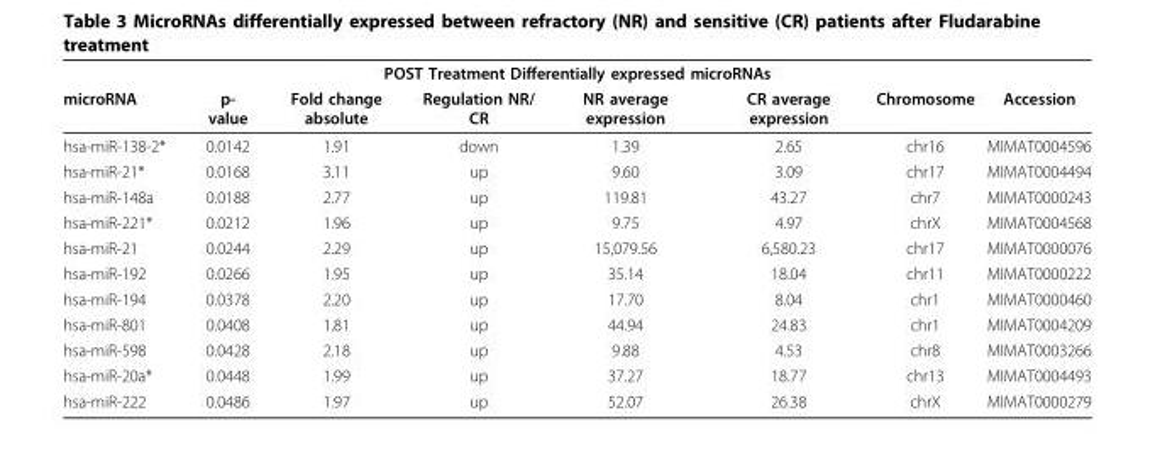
<table><thead><tr><td colspan="8">POST Treatment Differentially expressed microRNAs</td></tr><tr><td>microRNA</td><td>p- value</td><td>Fold change absolute</td><td>Regulation NR/ CR</td><td>NR average expression</td><td>CR average expression</td><td>Chromosome</td><td>Accession</td></tr></thead><tbody><tr><td>hsa-miR-138-2*</td><td>0.0142</td><td>1.91</td><td>down</td><td>1.39</td><td>2.65</td><td>chr16</td><td>MIMAT0004596</td></tr><tr><td>hsa-miR-21*</td><td>0.0168</td><td>3.11</td><td>up</td><td>9.60</td><td>3.09</td><td>chr17</td><td>MIMAT0004494</td></tr><tr><td>hsa-miR-148a</td><td>0.0188</td><td>2.77</td><td>up</td><td>119.81</td><td>43.27</td><td>chr7</td><td>MIMAT0000243</td></tr><tr><td>hsa-miR-221*</td><td>0.0212</td><td>1.96</td><td>up</td><td>9.75</td><td>4.97</td><td>chrX</td><td>MIMAT0004568</td></tr><tr><td>hsa-miR-21</td><td>0.0244</td><td>2.29</td><td>up</td><td>15,079.56</td><td>6,580.23</td><td>chr17</td><td>MIMAT0000076</td></tr><tr><td>hsa-miR-192</td><td>0.0266</td><td>1.95</td><td>up</td><td>35.14</td><td>18.04</td><td>chr11</td><td>MIMAT0000222</td></tr><tr><td>hsa-miR-194</td><td>0.0378</td><td>2.20</td><td>up</td><td>17.70</td><td>8.04</td><td>chr1</td><td>MIMAT0000460</td></tr><tr><td>hsa-miR-801</td><td>0.0408</td><td>1.81</td><td>up</td><td>44.94</td><td>24.83</td><td>chr1</td><td>MIMAT0004209</td></tr><tr><td>hsa-miR-598</td><td>0.0428</td><td>2.18</td><td>up</td><td>9.88</td><td>4.53</td><td>chr8</td><td>MIMAT0003266</td></tr><tr><td>hsa-miR-20a*</td><td>0.0448</td><td>1.99</td><td>up</td><td>37.27</td><td>18.77</td><td>chr13</td><td>MIMAT0004493</td></tr><tr><td>hsa-miR-222</td><td>0.0486</td><td>1.97</td><td>up</td><td>52.07</td><td>26.38</td><td>chrX</td><td>MIMAT0000279</td></tr></tbody></table>